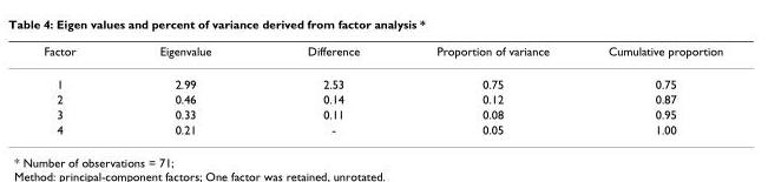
<table><thead><tr><td>Factor</td><td>Eigenvalue</td><td>Difference</td><td>Proportion of variance</td><td>Cumulative proportion</td></tr></thead><tbody><tr><td>1</td><td>2.99</td><td>2.53</td><td>0.75</td><td>0.75</td></tr><tr><td>2</td><td>0.46</td><td>0.14</td><td>0.12</td><td>0.87</td></tr><tr><td>3</td><td>0.33</td><td>0.11</td><td>0.08</td><td>0.95</td></tr><tr><td>4</td><td>0.21</td><td>-</td><td>0.05</td><td>1.00</td></tr></tbody></table>